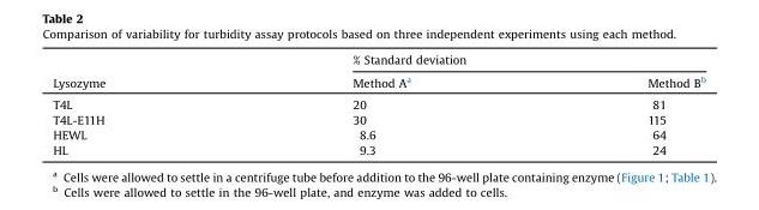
<table><thead><tr><td rowspan="2">Lysozyme</td><td colspan="2">% Standard deviation</td></tr><tr><td>Method A<sup>a</sup></td><td>Method B<sup>b</sup></td></tr></thead><tbody><tr><td>T4L</td><td>20</td><td>81</td></tr><tr><td>T4L-E11H</td><td>30</td><td>115</td></tr><tr><td>HEWL</td><td>8.6</td><td>64</td></tr><tr><td>HL</td><td>9.3</td><td>24</td></tr></tbody></table>